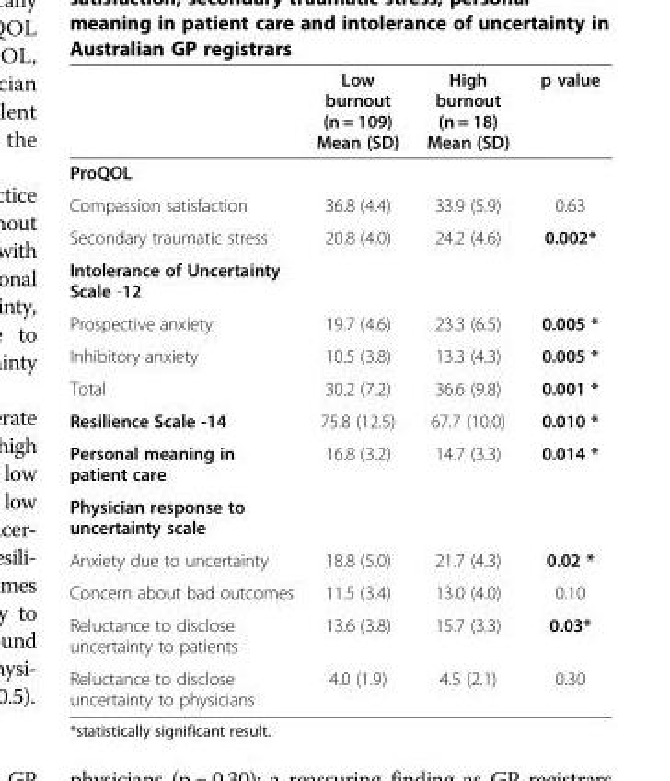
<table><thead><tr><td></td><td>Low burnout (n = 109) Mean (SD)</td><td>High burnout (n = 18) Mean (SD)</td><td>p value</td></tr></thead><tbody><tr><td colspan="4">ProQOL</td></tr><tr><td>Compassion satisfaction</td><td>36.8 (4.4)</td><td>33.9 (5.9)</td><td>0.63</td></tr><tr><td>Secondary traumatic stress</td><td>20.8 (4.0)</td><td>24.2 (4.6)</td><td>0.002*</td></tr><tr><td colspan="4">Intolerance of Uncertainty Scale -12</td></tr><tr><td>Prospective anxiety</td><td>19.7 (4.6)</td><td>23.3 (6.5)</td><td>0.005 *</td></tr><tr><td>Inhibitory anxiety</td><td>10.5 (3.8)</td><td>13.3 (4.3)</td><td>0.005 *</td></tr><tr><td>Total</td><td>30.2 (7.2)</td><td>36.6 (9.8)</td><td>0.001 *</td></tr><tr><td>Resilience Scale -14</td><td>75.8 (12.5)</td><td>67.7 (10.0)</td><td>0.010 *</td></tr><tr><td>Personal meaning in patient care</td><td>16.8 (3.2)</td><td>14.7 (3.3)</td><td>0.014 *</td></tr><tr><td colspan="4">Physician response to uncertainty scale</td></tr><tr><td>Anxiety due to uncertainty</td><td>18.8 (5.0)</td><td>21.7 (4.3)</td><td>0.02 *</td></tr><tr><td>Concern about bad outcomes</td><td>11.5 (3.4)</td><td>13.0 (4.0)</td><td>0.10</td></tr><tr><td>Reluctance to disclose uncertainty to patients</td><td>13.6 (3.8)</td><td>15.7 (3.3)</td><td>0.03*</td></tr><tr><td>Reluctance to disclose uncertainty to physicians</td><td>4.0 (1.9)</td><td>4.5 (2.1)</td><td>0.30</td></tr></tbody></table>